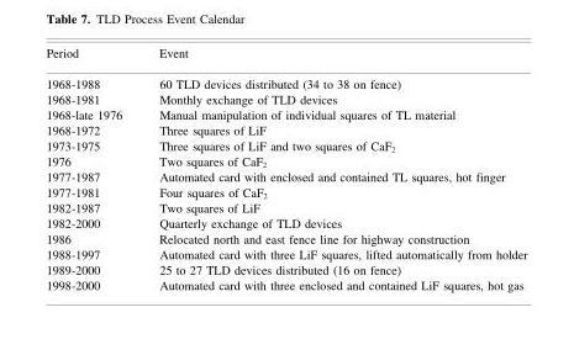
<table><thead><tr><td>Period</td><td>Event</td></tr></thead><tbody><tr><td>1968-1988</td><td>60 TLD devices distributed (34 to 38 on fence)</td></tr><tr><td>1968-1981</td><td>Monthly exchange of TLD devices</td></tr><tr><td>1968-late 1976</td><td>Manual manipulation of individual squares of TL material</td></tr><tr><td>1968-1972</td><td>Three squares of LiF</td></tr><tr><td>1973-1975</td><td>Three squares of LiF and two squares of CaF<sub>2</sub></td></tr><tr><td>1976</td><td>Two squares of CaF<sub>2</sub></td></tr><tr><td>1977-1987</td><td>Automated card with enclosed and contained TL squares, hot finger</td></tr><tr><td>1977-1981</td><td>Four squares of CaF<sub>2</sub></td></tr><tr><td>1982-1987</td><td>Two squares of LiF</td></tr><tr><td>1982-2000</td><td>Quarterly exchange of TLD devices</td></tr><tr><td>1986</td><td>Relocated north and east fence line for highway construction</td></tr><tr><td>1988-1997</td><td>Automated card with three LiF squares, lifted automatically from holder</td></tr><tr><td>1989-2000</td><td>25 to 27 TLD devices distributed (16 on fence)</td></tr><tr><td>1998-2000</td><td>Automated card with three enclosed and contained LiF squares, hot gas</td></tr></tbody></table>